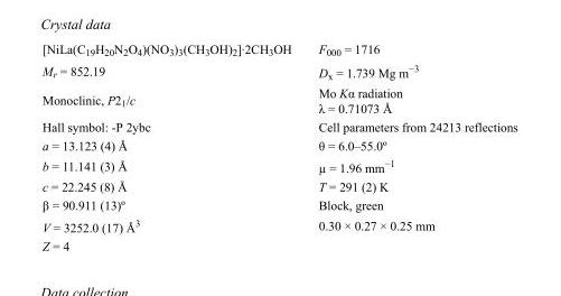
<table><tbody><tr><td>[NiLa(C<sub>19</sub>H<sub>20</sub>N<sub>2</sub>O<sub>4</sub>)(NO<sub>3</sub>)<sub>3</sub>(CH<sub>3</sub>OH)<sub>2</sub>]·2CH<sub>3</sub>OH</td><td>F<sub>000</sub> = 1716</td></tr><tr><td>M<sub>r</sub> = 852.19</td><td>D<sub>x</sub> = 1.739 Mg m<sup>−3</sup></td></tr><tr><td>Monoclinic, P2<sub>1</sub>/c</td><td>Mo Kα radiation λ = 0.71073 Å</td></tr><tr><td>Hall symbol: -P 2ybc</td><td>Cell parameters from 24213 reflections</td></tr><tr><td>a = 13.123 (4) Å</td><td>θ = 6.0–55.0º</td></tr><tr><td>b = 11.141 (3) Å</td><td>µ = 1.96 mm<sup>−1</sup></td></tr><tr><td>c = 22.245 (8) Å</td><td>T = 291 (2) K</td></tr><tr><td>β = 90.911 (13)º</td><td>Block, green</td></tr><tr><td>V = 3252.0 (17) Å<sup>3</sup></td><td>0.30 × 0.27 × 0.25 mm</td></tr><tr><td>Z = 4</td><td></td></tr></tbody></table>